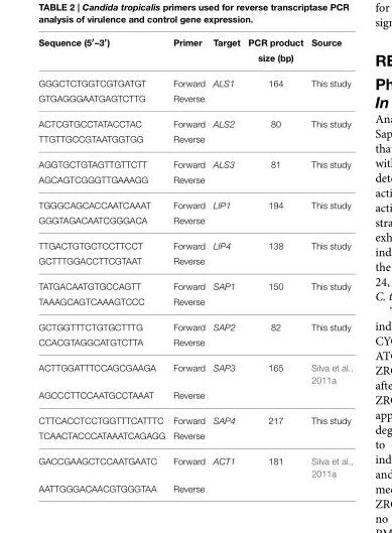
<table><thead><tr><td>Sequence (5′–3′)</td><td>Primer</td><td>Target</td><td>PCR product size (bp)</td><td>Source</td></tr></thead><tbody><tr><td>GGGCTCTGGTCGTGATGT</td><td>Forward</td><td>ALS1</td><td>164</td><td>This study</td></tr><tr><td>GTGAGGGAATGAGTCTTG</td><td>Reverse</td><td></td><td></td><td></td></tr><tr><td>ACTCGTGCCTATACCTAC</td><td>Forward</td><td>ALS2</td><td>80</td><td>This study</td></tr><tr><td>TTGTTGCCGTAATGGTGG</td><td>Reverse</td><td></td><td></td><td></td></tr><tr><td>AGGTGCTGTAGTTGTTCTT</td><td>Forward</td><td>ALS3</td><td>81</td><td>This study</td></tr><tr><td>AGCAGTCGGGTTGAAAGG</td><td>Reverse</td><td></td><td></td><td></td></tr><tr><td>TGGGCAGCACCAATCAAAT</td><td>Forward</td><td>LIP1</td><td>194</td><td>This study</td></tr><tr><td>GGGTAGACAATCGGGACA</td><td>Reverse</td><td></td><td></td><td></td></tr><tr><td>TTGACTGTGCTCCTTCCT</td><td>Forward</td><td>LIP4</td><td>138</td><td>This study</td></tr><tr><td>GCTTTGGACCTTCGTAAT</td><td>Reverse</td><td></td><td></td><td></td></tr><tr><td>TATGACAATGTGCCAGTT</td><td>Forward</td><td>SAP1</td><td>150</td><td>This study</td></tr><tr><td>TAAAGCAGTCAAAGTCCC</td><td>Reverse</td><td></td><td></td><td></td></tr><tr><td>GCTGGTTTCTGTGCTTTG</td><td>Forward</td><td>SAP2</td><td>82</td><td>This study</td></tr><tr><td>CCACGTAGGCATGTCTTA</td><td>Reverse</td><td></td><td></td><td></td></tr><tr><td>ACTTGGATTTCCAGCGAAGA</td><td>Forward</td><td>SAP3</td><td>165</td><td>Silva et al., 2011a</td></tr><tr><td>AGCCCTTCCAATGCCTAAAT</td><td>Reverse</td><td></td><td></td><td></td></tr><tr><td>CTTCACCTCCTGGTTTCATTTC</td><td>Forward</td><td>SAP4</td><td>217</td><td>This study</td></tr><tr><td>TCAACTACCCATAAATCAGAGG</td><td>Reverse</td><td></td><td></td><td></td></tr><tr><td>GACCGAAGCTCCAATGAATC</td><td>Forward</td><td>ACT1</td><td>181</td><td>Silva et al., 2011a</td></tr><tr><td>AATTGGGACAACGTGGGTAA</td><td>Reverse</td><td></td><td></td><td></td></tr></tbody></table>